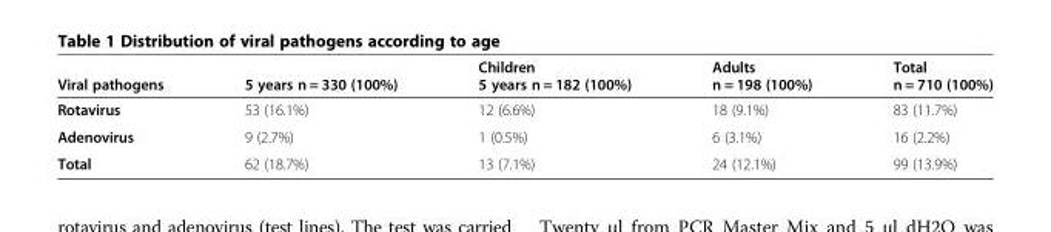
<table><thead><tr><td>Viral pathogens</td><td>5 years n = 330 (100%)</td><td>Children 5 years n = 182 (100%)</td><td>Adults n = 198 (100%)</td><td>Total n = 710 (100%)</td></tr></thead><tbody><tr><td>Rotavirus</td><td>53 (16.1%)</td><td>12 (6.6%)</td><td>18 (9.1%)</td><td>83 (11.7%)</td></tr><tr><td>Adenovirus</td><td>9 (2.7%)</td><td>1 (0.5%)</td><td>6 (3.1%)</td><td>16 (2.2%)</td></tr><tr><td>Total</td><td>62 (18.7%)</td><td>13 (7.1%)</td><td>24 (12.1%)</td><td>99 (13.9%)</td></tr></tbody></table>